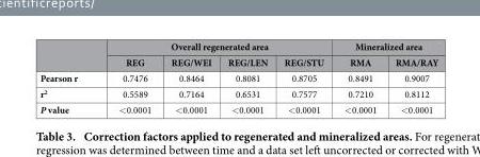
<table><thead><tr><td rowspan="2"></td><td colspan="4">Overall regenerated area</td><td colspan="2">Mineralized area</td></tr><tr><td>REG</td><td>REG/WEI</td><td>REG/LEN</td><td>REG/STU</td><td>RMA</td><td>RMA/RAY</td></tr></thead><tbody><tr><td>Pearson r</td><td>0.7476</td><td>0.8464</td><td>0.8081</td><td>0.8705</td><td>0.8491</td><td>0.9007</td></tr><tr><td>r<sup>2</sup></td><td>0.5589</td><td>0.7164</td><td>0.6531</td><td>0.7577</td><td>0.7210</td><td>0.8112</td></tr><tr><td>P value</td><td>&lt; 0.0001</td><td>&lt; 0.0001</td><td>&lt; 0.0001</td><td>&lt; 0.0001</td><td>&lt; 0.0001</td><td>&lt; 0.0001</td></tr></tbody></table>